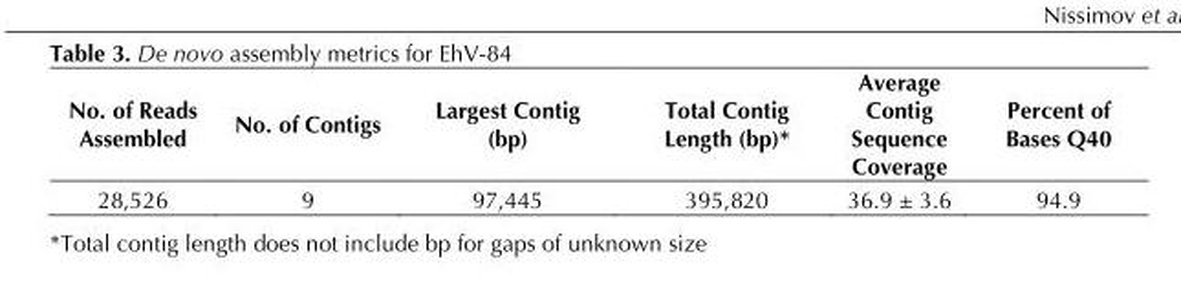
<table><thead><tr><td>No. of Reads Assembled</td><td>No. of Contigs</td><td>Largest Contig (bp)</td><td>Total Contig Length (bp)*</td><td>Average Contig Sequence Coverage</td><td>Percent of Bases Q40</td></tr></thead><tbody><tr><td>28,526</td><td>9</td><td>97,445</td><td>395,820</td><td>36.9 ± 3.6</td><td>94.9</td></tr></tbody></table>